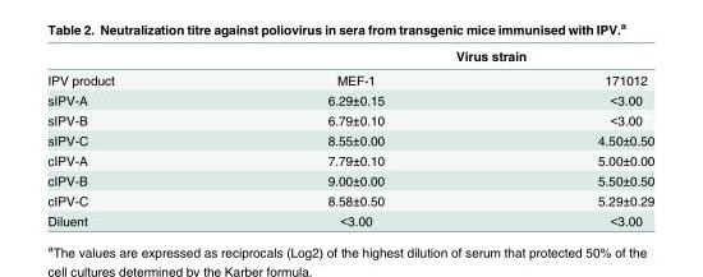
<table><thead><tr><td rowspan="2">IPV product</td><td colspan="2">Virus strain</td></tr><tr><td>MEF-1</td><td>171012</td></tr></thead><tbody><tr><td>sIPV-A</td><td>6.29±0.15</td><td>&lt;3.00</td></tr><tr><td>sIPV-B</td><td>6.79±0.10</td><td>&lt;3.00</td></tr><tr><td>sIPV-C</td><td>8.55±0.00</td><td>4.50±0.50</td></tr><tr><td>cIPV-A</td><td>7.79±0.10</td><td>5.00±0.00</td></tr><tr><td>cIPV-B</td><td>9.00±0.00</td><td>5.50±0.50</td></tr><tr><td>cIPV-C</td><td>8.58±0.50</td><td>5.29±0.29</td></tr><tr><td>Diluent</td><td>&lt;3.00</td><td>&lt;3.00</td></tr></tbody></table>